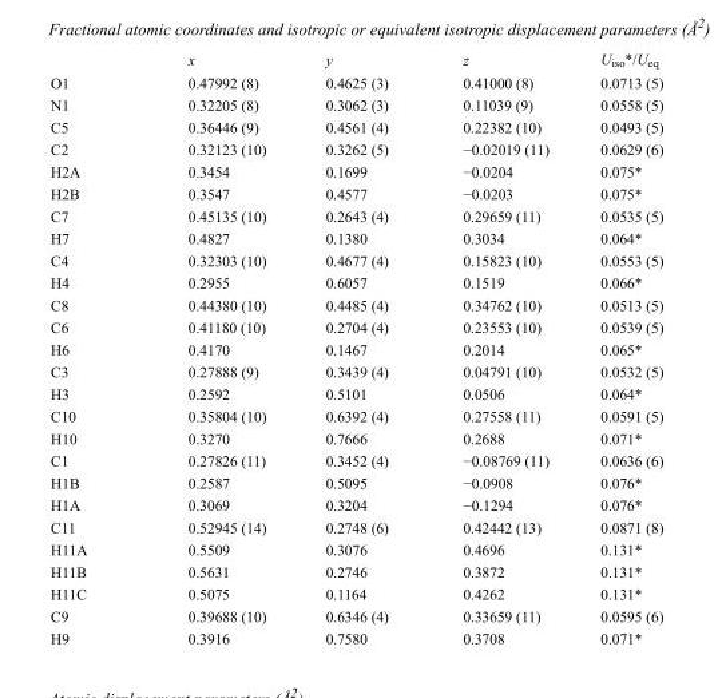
<table><thead><tr><td></td><td>x</td><td>y</td><td>z</td><td>U<sub>iso</sub>*/U<sub>eq</sub></td></tr></thead><tbody><tr><td>O1</td><td>0.47992 (8)</td><td>0.4625 (3)</td><td>0.41000 (8)</td><td>0.0713 (5)</td></tr><tr><td>N1</td><td>0.32205 (8)</td><td>0.3062 (3)</td><td>0.11039 (9)</td><td>0.0558 (5)</td></tr><tr><td>C5</td><td>0.36446 (9)</td><td>0.4561 (4)</td><td>0.22382 (10)</td><td>0.0493 (5)</td></tr><tr><td>C2</td><td>0.32123 (10)</td><td>0.3262 (5)</td><td>−0.02019 (11)</td><td>0.0629 (6)</td></tr><tr><td>H2A</td><td>0.3454</td><td>0.1699</td><td>−0.0204</td><td>0.075*</td></tr><tr><td>H2B</td><td>0.3547</td><td>0.4577</td><td>−0.0203</td><td>0.075*</td></tr><tr><td>C7</td><td>0.45135 (10)</td><td>0.2643 (4)</td><td>0.29659 (11)</td><td>0.0535 (5)</td></tr><tr><td>H7</td><td>0.4827</td><td>0.1380</td><td>0.3034</td><td>0.064*</td></tr><tr><td>C4</td><td>0.32303 (10)</td><td>0.4677 (4)</td><td>0.15823 (10)</td><td>0.0553 (5)</td></tr><tr><td>H4</td><td>0.2955</td><td>0.6057</td><td>0.1519</td><td>0.066*</td></tr><tr><td>C8</td><td>0.44380 (10)</td><td>0.4485 (4)</td><td>0.34762 (10)</td><td>0.0513 (5)</td></tr><tr><td>C6</td><td>0.41180 (10)</td><td>0.2704 (4)</td><td>0.23553 (10)</td><td>0.0539 (5)</td></tr><tr><td>H6</td><td>0.4170</td><td>0.1467</td><td>0.2014</td><td>0.065*</td></tr><tr><td>C3</td><td>0.27888 (9)</td><td>0.3439 (4)</td><td>0.04791 (10)</td><td>0.0532 (5)</td></tr><tr><td>H3</td><td>0.2592</td><td>0.5101</td><td>0.0506</td><td>0.064*</td></tr><tr><td>C10</td><td>0.35804 (10)</td><td>0.6392 (4)</td><td>0.27558 (11)</td><td>0.0591 (5)</td></tr><tr><td>H10</td><td>0.3270</td><td>0.7666</td><td>0.2688</td><td>0.071*</td></tr><tr><td>C1</td><td>0.27826 (11)</td><td>0.3452 (4)</td><td>−0.08769 (11)</td><td>0.0636 (6)</td></tr><tr><td>H1B</td><td>0.2587</td><td>0.5095</td><td>−0.0908</td><td>0.076*</td></tr><tr><td>H1A</td><td>0.3069</td><td>0.3204</td><td>−0.1294</td><td>0.076*</td></tr><tr><td>C11</td><td>0.52945 (14)</td><td>0.2748 (6)</td><td>0.42442 (13)</td><td>0.0871 (8)</td></tr><tr><td>H11A</td><td>0.5509</td><td>0.3076</td><td>0.4696</td><td>0.131*</td></tr><tr><td>H11B</td><td>0.5631</td><td>0.2746</td><td>0.3872</td><td>0.131*</td></tr><tr><td>H11C</td><td>0.5075</td><td>0.1164</td><td>0.4262</td><td>0.131*</td></tr><tr><td>C9</td><td>0.39688 (10)</td><td>0.6346 (4)</td><td>0.33659 (11)</td><td>0.0595 (6)</td></tr><tr><td>H9</td><td>0.3916</td><td>0.7580</td><td>0.3708</td><td>0.071*</td></tr></tbody></table>